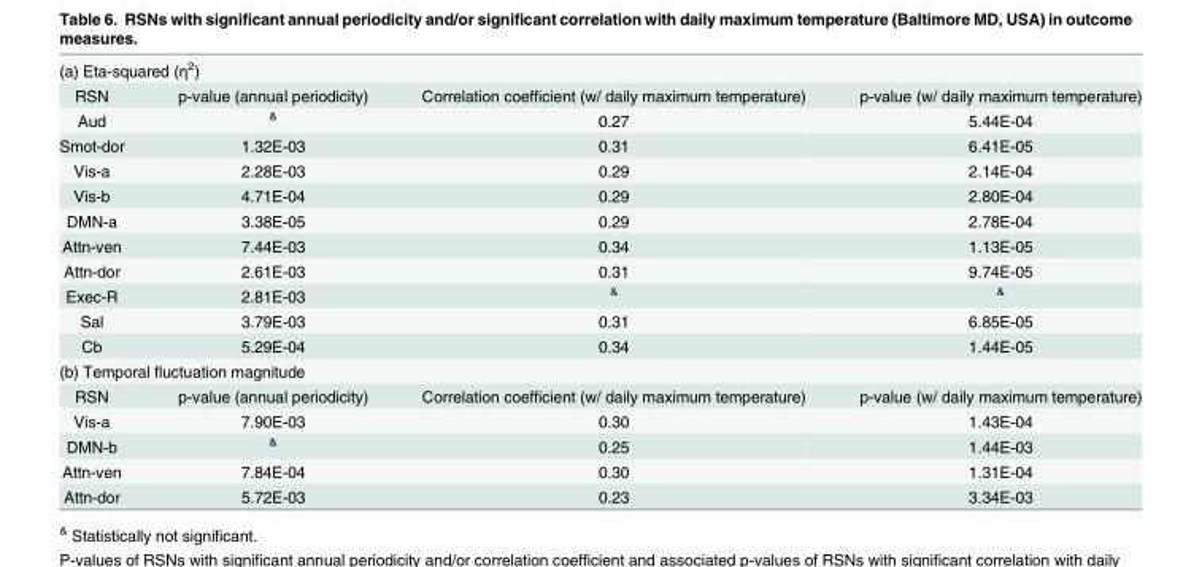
<table><tbody><tr><td colspan="4">(a) Eta-squared (η<sup>2</sup>)</td></tr><tr><td>RSN</td><td>p-value (annual periodicity)</td><td>Correlation coefficient (w/ daily maximum temperature)</td><td>p-value (w/ daily maximum temperature)</td></tr><tr><td>Aud</td><td><sup>&amp;</sup></td><td>0.27</td><td>5.44E-04</td></tr><tr><td>Smot-dor</td><td>1.32E-03</td><td>0.31</td><td>6.41E-05</td></tr><tr><td>Vis-a</td><td>2.28E-03</td><td>0.29</td><td>2.14E-04</td></tr><tr><td>Vis-b</td><td>4.71E-04</td><td>0.29</td><td>2.80E-04</td></tr><tr><td>DMN-a</td><td>3.38E-05</td><td>0.29</td><td>2.78E-04</td></tr><tr><td>Attn-ven</td><td>7.44E-03</td><td>0.34</td><td>1.13E-05</td></tr><tr><td>Attn-dor</td><td>2.61E-03</td><td>0.31</td><td>9.74E-05</td></tr><tr><td>Exec-R</td><td>2.81E-03</td><td><sup>&amp;</sup></td><td><sup>&amp;</sup></td></tr><tr><td>Sal</td><td>3.79E-03</td><td>0.31</td><td>6.85E-05</td></tr><tr><td>Cb</td><td>5.29E-04</td><td>0.34</td><td>1.44E-05</td></tr><tr><td colspan="4">(b) Temporal fluctuation magnitude</td></tr><tr><td>RSN</td><td>p-value (annual periodicity)</td><td>Correlation coefficient (w/ daily maximum temperature)</td><td>p-value (w/ daily maximum temperature)</td></tr><tr><td>Vis-a</td><td>7.90E-03</td><td>0.30</td><td>1.43E-04</td></tr><tr><td>DMN-b</td><td><sup>&amp;</sup></td><td>0.25</td><td>1.44E-03</td></tr><tr><td>Attn-ven</td><td>7.84E-04</td><td>0.30</td><td>1.31E-04</td></tr><tr><td>Attn-dor</td><td>5.72E-03</td><td>0.23</td><td>3.34E-03</td></tr></tbody></table>